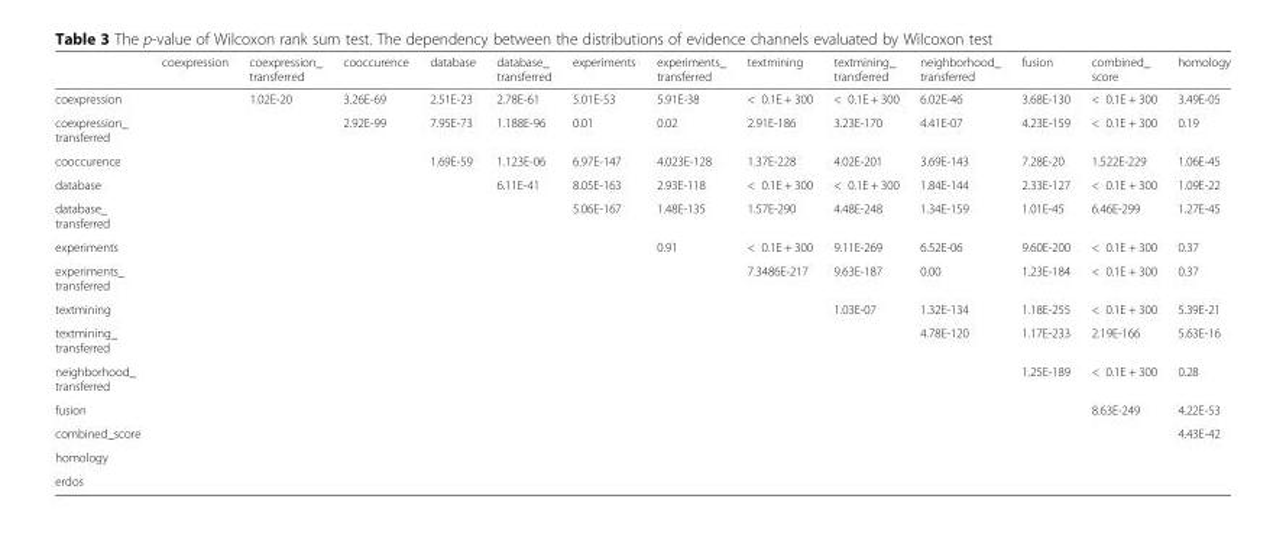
<table><thead><tr><td></td><td>coexpression</td><td>coexpression_ transferred</td><td>cooccurence</td><td>database</td><td>database_ transferred</td><td>experiments</td><td>experiments_ transferred</td><td>textmining</td><td>textmining_ transferred</td><td>neighborhood_ transferred</td><td>fusion</td><td>combined_ score</td><td>homology</td></tr></thead><tbody><tr><td>coexpression</td><td></td><td>1.02E-20</td><td>3.26E-69</td><td>2.51E-23</td><td>2.78E-61</td><td>5.01E-53</td><td>5.91E-38</td><td>&lt; 0.1E + 300</td><td>&lt; 0.1E + 300</td><td>6.02E-46</td><td>3.68E-130</td><td>&lt; 0.1E + 300</td><td>3.49E-05</td></tr><tr><td>coexpression_ transferred</td><td></td><td></td><td>2.92E-99</td><td>7.95E-73</td><td>1.188E-96</td><td>0.01</td><td>0.02</td><td>2.91E-186</td><td>3.23E-170</td><td>4.41E-07</td><td>4.23E-159</td><td>&lt; 0.1E + 300</td><td>0.19</td></tr><tr><td>cooccurence</td><td></td><td></td><td></td><td>1.69E-59</td><td>1.123E-06</td><td>6.97E-147</td><td>4.023E-128</td><td>1.37E-228</td><td>4.02E-201</td><td>3.69E-143</td><td>7.28E-20</td><td>1.522E-229</td><td>1.06E-45</td></tr><tr><td>database</td><td></td><td></td><td></td><td></td><td>6.11E-41</td><td>8.05E-163</td><td>2.93E-118</td><td>&lt; 0.1E + 300</td><td>&lt; 0.1E + 300</td><td>1.84E-144</td><td>2.33E-127</td><td>&lt; 0.1E + 300</td><td>1.09E-22</td></tr><tr><td>database_ transferred</td><td></td><td></td><td></td><td></td><td></td><td>5.06E-167</td><td>1.48E-135</td><td>1.57E-290</td><td>4.48E-248</td><td>1.34E-159</td><td>1.01E-45</td><td>6.46E-299</td><td>1.27E-45</td></tr><tr><td>experiments</td><td></td><td></td><td></td><td></td><td></td><td></td><td>0.91</td><td>&lt; 0.1E + 300</td><td>9.11E-269</td><td>6.52E-06</td><td>9.60E-200</td><td>&lt; 0.1E + 300</td><td>0.37</td></tr><tr><td>experiments_ transferred</td><td></td><td></td><td></td><td></td><td></td><td></td><td></td><td>7.3486E-217</td><td>9.63E-187</td><td>0.00</td><td>1.23E-184</td><td>&lt; 0.1E + 300</td><td>0.37</td></tr><tr><td>textmining</td><td></td><td></td><td></td><td></td><td></td><td></td><td></td><td></td><td>1.03E-07</td><td>1.32E-134</td><td>1.18E-255</td><td>&lt; 0.1E + 300</td><td>5.39E-21</td></tr><tr><td>textmining_ transferred</td><td></td><td></td><td></td><td></td><td></td><td></td><td></td><td></td><td></td><td>4.78E-120</td><td>1.17E-233</td><td>2.19E-166</td><td>5.63E-16</td></tr><tr><td>neighborhood_ transferred</td><td></td><td></td><td></td><td></td><td></td><td></td><td></td><td></td><td></td><td></td><td>1.25E-189</td><td>&lt; 0.1E + 300</td><td>0.28</td></tr><tr><td>fusion</td><td></td><td></td><td></td><td></td><td></td><td></td><td></td><td></td><td></td><td></td><td></td><td>8.63E-249</td><td>4.22E-53</td></tr><tr><td>combined_score</td><td></td><td></td><td></td><td></td><td></td><td></td><td></td><td></td><td></td><td></td><td></td><td></td><td>4.43E-42</td></tr><tr><td colspan="14">homology</td></tr><tr><td>erdos</td><td></td><td></td><td></td><td></td><td></td><td></td><td></td><td></td><td></td><td></td><td></td><td></td><td></td></tr></tbody></table>